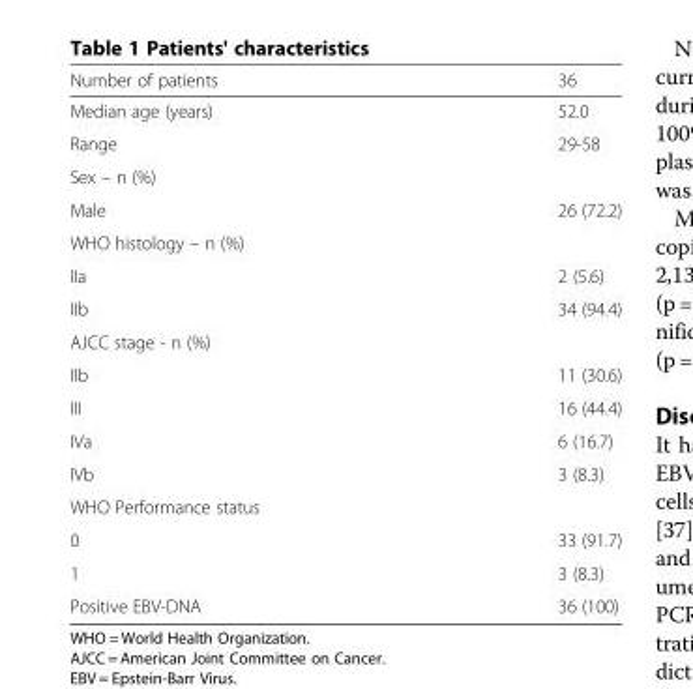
<table><thead><tr><td>Number of patients</td><td>36</td></tr></thead><tbody><tr><td>Median age (years)</td><td>52.0</td></tr><tr><td>Range</td><td>29-58</td></tr><tr><td colspan="2">Sex – n (%)</td></tr><tr><td>Male</td><td>26 (72.2)</td></tr><tr><td colspan="2">WHO histology – n (%)</td></tr><tr><td>IIa</td><td>2 (5.6)</td></tr><tr><td>IIb</td><td>34 (94.4)</td></tr><tr><td colspan="2">AJCC stage - n (%)</td></tr><tr><td>IIb</td><td>11 (30.6)</td></tr><tr><td>III</td><td>16 (44.4)</td></tr><tr><td>IVa</td><td>6 (16.7)</td></tr><tr><td>IVb</td><td>3 (8.3)</td></tr><tr><td colspan="2">WHO Performance status</td></tr><tr><td>0</td><td>33 (91.7)</td></tr><tr><td>1</td><td>3 (8.3)</td></tr><tr><td>Positive EBV-DNA</td><td>36 (100)</td></tr></tbody></table>